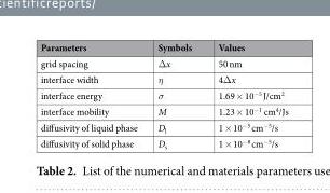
<table><thead><tr><td>Parameters</td><td>Symbols</td><td>Values</td></tr></thead><tbody><tr><td>grid spacing</td><td>Δx</td><td>50 nm</td></tr><tr><td>interface width</td><td>η</td><td>4Δx</td></tr><tr><td>interface energy</td><td>σ</td><td>1.69 × 10<sup>−5</sup> J/cm<sup>2</sup></td></tr><tr><td>interface mobility</td><td>M</td><td>1.23 × 10<sup>−1</sup> cm<sup>4</sup>/Js</td></tr><tr><td>diffusivity of liquid phase</td><td>D<sub>l</sub></td><td>1 × 10<sup>−5</sup> cm<sup>−5</sup>/s</td></tr><tr><td>diffusivity of solid phase</td><td>D<sub>s</sub></td><td>1 × 10<sup>−8</sup> cm<sup>−5</sup>/s</td></tr></tbody></table>